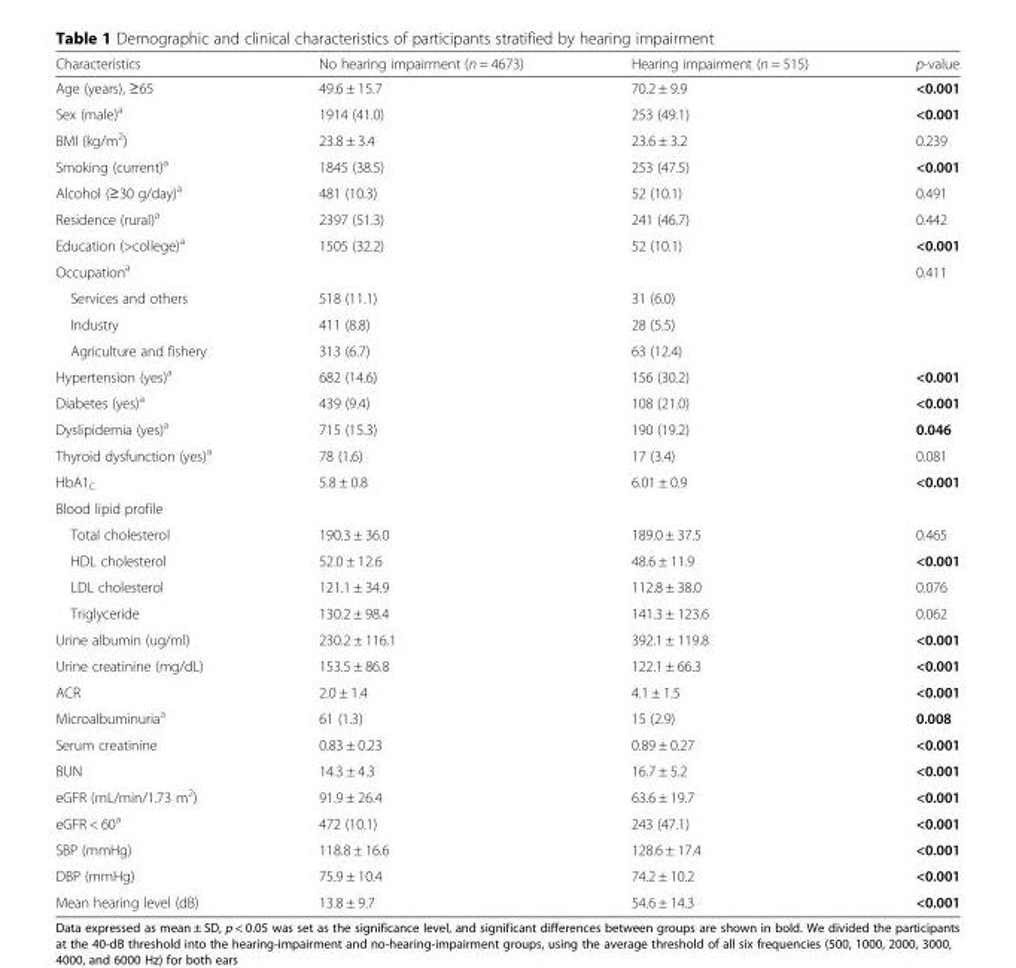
<table><thead><tr><td>Characteristics</td><td>No hearing impairment (n = 4673)</td><td>Hearing impairment (n = 515)</td><td>p-value</td></tr></thead><tbody><tr><td>Age (years), ≥65</td><td>49.6 ± 15.7</td><td>70.2 ± 9.9</td><td>&lt;0.001</td></tr><tr><td>Sex (male)<sup>a</sup></td><td>1914 (41.0)</td><td>253 (49.1)</td><td>&lt;0.001</td></tr><tr><td>BMI (kg/m<sup>2</sup>)</td><td>23.8 ± 3.4</td><td>23.6 ± 3.2</td><td>0.239</td></tr><tr><td>Smoking (current)<sup>a</sup></td><td>1845 (38.5)</td><td>253 (47.5)</td><td>&lt;0.001</td></tr><tr><td>Alcohol (≥30 g/day)<sup>a</sup></td><td>481 (10.3)</td><td>52 (10.1)</td><td>0.491</td></tr><tr><td>Residence (rural)<sup>a</sup></td><td>2397 (51.3)</td><td>241 (46.7)</td><td>0.442</td></tr><tr><td>Education (&gt;college)<sup>a</sup></td><td>1505 (32.2)</td><td>52 (10.1)</td><td>&lt;0.001</td></tr><tr><td>Occupation<sup>a</sup></td><td></td><td></td><td>0.411</td></tr><tr><td>Services and others</td><td>518 (11.1)</td><td>31 (6.0)</td><td></td></tr><tr><td>Industry</td><td>411 (8.8)</td><td>28 (5.5)</td><td></td></tr><tr><td>Agriculture and fishery</td><td>313 (6.7)</td><td>63 (12.4)</td><td></td></tr><tr><td>Hypertension (yes)<sup>a</sup></td><td>682 (14.6)</td><td>156 (30.2)</td><td>&lt;0.001</td></tr><tr><td>Diabetes (yes)<sup>a</sup></td><td>439 (9.4)</td><td>108 (21.0)</td><td>&lt;0.001</td></tr><tr><td>Dyslipidemia (yes)<sup>a</sup></td><td>715 (15.3)</td><td>190 (19.2)</td><td>0.046</td></tr><tr><td>Thyroid dysfunction (yes)<sup>a</sup></td><td>78 (1.6)</td><td>17 (3.4)</td><td>0.081</td></tr><tr><td>HbA1<sub>C</sub></td><td>5.8 ± 0.8</td><td>6.01 ± 0.9</td><td>&lt;0.001</td></tr><tr><td colspan="4">Blood lipid profile</td></tr><tr><td>Total cholesterol</td><td>190.3 ± 36.0</td><td>189.0 ± 37.5</td><td>0.465</td></tr><tr><td>HDL cholesterol</td><td>52.0 ± 12.6</td><td>48.6 ± 11.9</td><td>&lt;0.001</td></tr><tr><td>LDL cholesterol</td><td>121.1 ± 34.9</td><td>112.8 ± 38.0</td><td>0.076</td></tr><tr><td>Triglyceride</td><td>130.2 ± 98.4</td><td>141.3 ± 123.6</td><td>0.062</td></tr><tr><td>Urine albumin (ug/ml)</td><td>230.2 ± 116.1</td><td>392.1 ± 119.8</td><td>&lt;0.001</td></tr><tr><td>Urine creatinine (mg/dL)</td><td>153.5 ± 86.8</td><td>122.1 ± 66.3</td><td>&lt;0.001</td></tr><tr><td>ACR</td><td>2.0 ± 1.4</td><td>4.1 ± 1.5</td><td>&lt;0.001</td></tr><tr><td>Microalbuminuria<sup>a</sup></td><td>61 (1.3)</td><td>15 (2.9)</td><td>0.008</td></tr><tr><td>Serum creatinine</td><td>0.83 ± 0.23</td><td>0.89 ± 0.27</td><td>&lt;0.001</td></tr><tr><td>BUN</td><td>14.3 ± 4.3</td><td>16.7 ± 5.2</td><td>&lt;0.001</td></tr><tr><td>eGFR (mL/min/1.73 m<sup>2</sup>)</td><td>91.9 ± 26.4</td><td>63.6 ± 19.7</td><td>&lt;0.001</td></tr><tr><td>eGFR &lt; 60<sup>a</sup></td><td>472 (10.1)</td><td>243 (47.1)</td><td>&lt;0.001</td></tr><tr><td>SBP (mmHg)</td><td>118.8 ± 16.6</td><td>128.6 ± 17.4</td><td>&lt;0.001</td></tr><tr><td>DBP (mmHg)</td><td>75.9 ± 10.4</td><td>74.2 ± 10.2</td><td>&lt;0.001</td></tr><tr><td>Mean hearing level (dB)</td><td>13.8 ± 9.7</td><td>54.6 ± 14.3</td><td>&lt;0.001</td></tr></tbody></table>